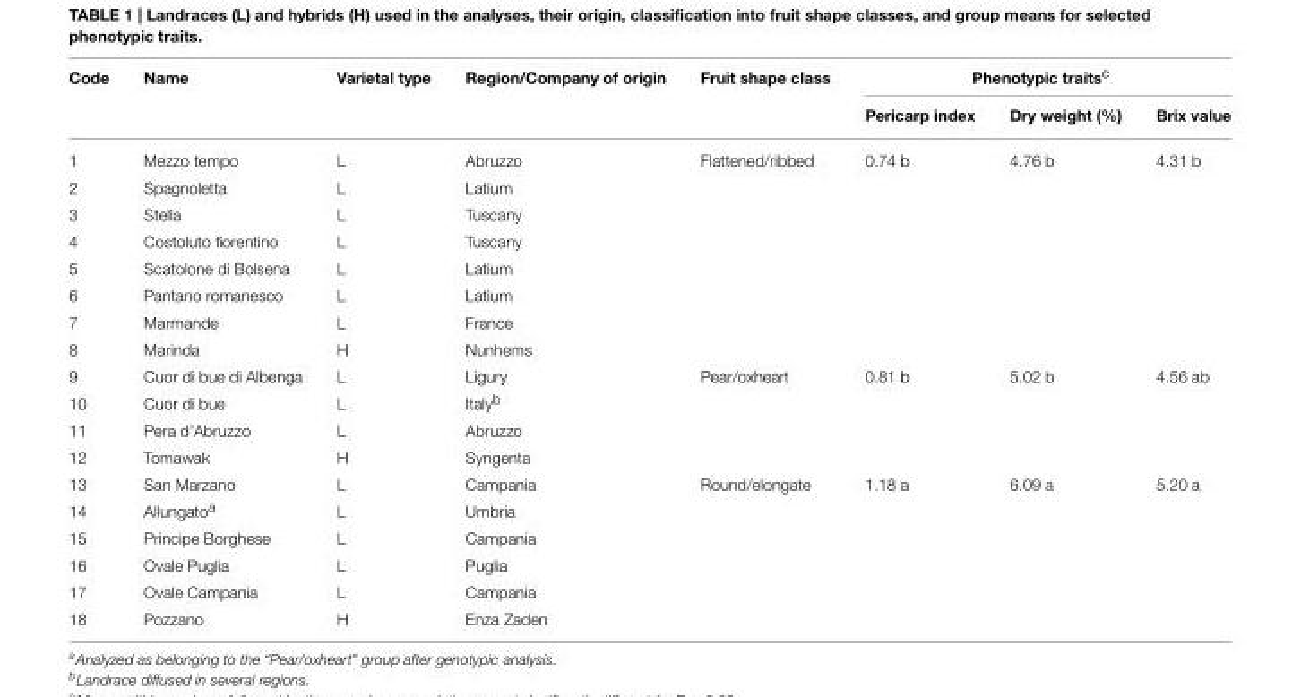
<table><thead><tr><td rowspan="2">Code</td><td rowspan="2">Name</td><td rowspan="2">Varietal type</td><td rowspan="2">Region/Company of origin</td><td rowspan="2">Fruit shape class</td><td colspan="3">Phenotypic traits<sup>c</sup></td></tr><tr><td>Pericarp index</td><td>Dry weight (%)</td><td>Brix value</td></tr></thead><tbody><tr><td>1</td><td>Mezzo tempo</td><td>L</td><td>Abruzzo</td><td>Flattened/ribbed</td><td>0.74 b</td><td>4.76 b</td><td>4.31 b</td></tr><tr><td>2</td><td>Spagnoletta</td><td>L</td><td>Latium</td><td></td><td></td><td></td><td></td></tr><tr><td>3</td><td>Stella</td><td>L</td><td>Tuscany</td><td></td><td></td><td></td><td></td></tr><tr><td>4</td><td>Costoluto fiorentino</td><td>L</td><td>Tuscany</td><td></td><td></td><td></td><td></td></tr><tr><td>5</td><td>Scatolone di Bolsena</td><td>L</td><td>Latium</td><td></td><td></td><td></td><td></td></tr><tr><td>6</td><td>Pantano romanesco</td><td>L</td><td>Latium</td><td></td><td></td><td></td><td></td></tr><tr><td>7</td><td>Marmande</td><td>L</td><td>France</td><td></td><td></td><td></td><td></td></tr><tr><td>8</td><td>Marinda</td><td>H</td><td>Nunhems</td><td></td><td></td><td></td><td></td></tr><tr><td>9</td><td>Cuor di bue di Albenga</td><td>L</td><td>Ligury</td><td>Pear/oxheart</td><td>0.81 b</td><td>5.02 b</td><td>4.56 ab</td></tr><tr><td>10</td><td>Cuor di bue</td><td>L</td><td>Italy<sup>b</sup></td><td></td><td></td><td></td><td></td></tr><tr><td>11</td><td>Pera d’Abruzzo</td><td>L</td><td>Abruzzo</td><td></td><td></td><td></td><td></td></tr><tr><td>12</td><td>Tomawak</td><td>H</td><td>Syngenta</td><td></td><td></td><td></td><td></td></tr><tr><td>13</td><td>San Marzano</td><td>L</td><td>Campania</td><td>Round/elongate</td><td>1.18 a</td><td>6.09 a</td><td>5.20 a</td></tr><tr><td>14</td><td>Allungato<sup>a</sup></td><td>L</td><td>Umbria</td><td></td><td></td><td></td><td></td></tr><tr><td>15</td><td>Principe Borghese</td><td>L</td><td>Campania</td><td></td><td></td><td></td><td></td></tr><tr><td>16</td><td>Ovale Puglia</td><td>L</td><td>Puglia</td><td></td><td></td><td></td><td></td></tr><tr><td>17</td><td>Ovale Campania</td><td>L</td><td>Campania</td><td></td><td></td><td></td><td></td></tr><tr><td>18</td><td>Pozzano</td><td>H</td><td>Enza Zaden</td><td></td><td></td><td></td><td></td></tr></tbody></table>